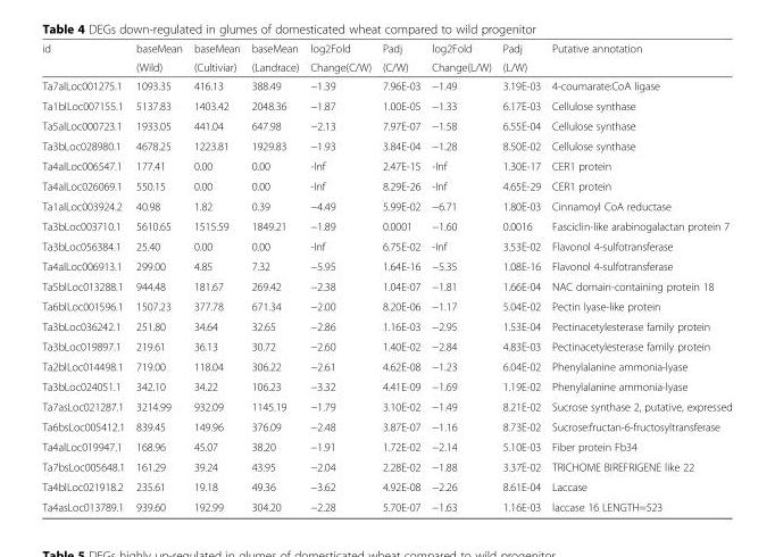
<table><thead><tr><td rowspan="2">id</td><td rowspan="2">baseMean (Wild)</td><td rowspan="2">baseMean (Cultiviar)</td><td rowspan="2">baseMean (Landrace)</td><td rowspan="2">log2Fold Change(C/W)</td><td rowspan="2">Padj (C/W)</td><td rowspan="2">log2Fold Change(L/W)</td><td rowspan="2">Padj (L/W)</td><td rowspan="2">Putative annotation</td></tr><tr></tr></thead><tbody><tr><td>Ta7alLoc001275.1</td><td>1093.35</td><td>416.13</td><td>388.49</td><td>−1.39</td><td>7.96E-03</td><td>−1.49</td><td>3.19E-03</td><td>4-coumarate:CoA ligase</td></tr><tr><td>Ta1blLoc007155.1</td><td>5137.83</td><td>1403.42</td><td>2048.36</td><td>−1.87</td><td>1.00E-05</td><td>−1.33</td><td>6.17E-03</td><td>Cellulose synthase</td></tr><tr><td>Ta5alLoc000723.1</td><td>1933.05</td><td>441.04</td><td>647.98</td><td>−2.13</td><td>7.97E-07</td><td>−1.58</td><td>6.55E-04</td><td>Cellulose synthase</td></tr><tr><td>Ta3bLoc028980.1</td><td>4678.25</td><td>1223.81</td><td>1929.83</td><td>−1.93</td><td>3.84E-04</td><td>−1.28</td><td>8.50E-02</td><td>Cellulose synthase</td></tr><tr><td>Ta4alLoc006547.1</td><td>177.41</td><td>0.00</td><td>0.00</td><td>-Inf</td><td>2.47E-15</td><td>-Inf</td><td>1.30E-17</td><td>CER1 protein</td></tr><tr><td>Ta4alLoc026069.1</td><td>550.15</td><td>0.00</td><td>0.00</td><td>-Inf</td><td>8.29E-26</td><td>-Inf</td><td>4.65E-29</td><td>CER1 protein</td></tr><tr><td>Ta1alLoc003924.2</td><td>40.98</td><td>1.82</td><td>0.39</td><td>−4.49</td><td>5.99E-02</td><td>−6.71</td><td>1.80E-03</td><td>Cinnamoyl CoA reductase</td></tr><tr><td>Ta3bLoc003710.1</td><td>5610.65</td><td>1515.59</td><td>1849.21</td><td>−1.89</td><td>0.0001</td><td>−1.60</td><td>0.0016</td><td>Fasciclin-like arabinogalactan protein 7</td></tr><tr><td>Ta3bLoc056384.1</td><td>25.40</td><td>0.00</td><td>0.00</td><td>-Inf</td><td>6.75E-02</td><td>-Inf</td><td>3.53E-02</td><td>Flavonol 4-sulfotransferase</td></tr><tr><td>Ta4alLoc006913.1</td><td>299.00</td><td>4.85</td><td>7.32</td><td>−5.95</td><td>1.64E-16</td><td>−5.35</td><td>1.08E-16</td><td>Flavonol 4-sulfotransferase</td></tr><tr><td>Ta5blLoc013288.1</td><td>944.48</td><td>181.67</td><td>269.42</td><td>−2.38</td><td>1.04E-07</td><td>−1.81</td><td>1.66E-04</td><td>NAC domain-containing protein 18</td></tr><tr><td>Ta6blLoc001596.1</td><td>1507.23</td><td>377.78</td><td>671.34</td><td>−2.00</td><td>8.20E-06</td><td>−1.17</td><td>5.04E-02</td><td>Pectin lyase-like protein</td></tr><tr><td>Ta3bLoc036242.1</td><td>251.80</td><td>34.64</td><td>32.65</td><td>−2.86</td><td>1.16E-03</td><td>−2.95</td><td>1.53E-04</td><td>Pectinacetylesterase family protein</td></tr><tr><td>Ta3bLoc019897.1</td><td>219.61</td><td>36.13</td><td>30.72</td><td>−2.60</td><td>1.40E-02</td><td>−2.84</td><td>4.83E-03</td><td>Pectinacetylesterase family protein</td></tr><tr><td>Ta2blLoc014498.1</td><td>719.00</td><td>118.04</td><td>306.22</td><td>−2.61</td><td>4.62E-08</td><td>−1.23</td><td>6.04E-02</td><td>Phenylalanine ammonia-lyase</td></tr><tr><td>Ta3bLoc024051.1</td><td>342.10</td><td>34.22</td><td>106.23</td><td>−3.32</td><td>4.41E-09</td><td>−1.69</td><td>1.19E-02</td><td>Phenylalanine ammonia-lyase</td></tr><tr><td>Ta7asLoc021287.1</td><td>3214.99</td><td>932.09</td><td>1145.19</td><td>−1.79</td><td>3.10E-02</td><td>−1.49</td><td>8.21E-02</td><td>Sucrose synthase 2, putative, expressed</td></tr><tr><td>Ta6bsLoc005412.1</td><td>839.45</td><td>149.96</td><td>376.09</td><td>−2.48</td><td>3.87E-07</td><td>−1.16</td><td>8.73E-02</td><td>Sucrose:fructan-6-fructosyltransferase</td></tr><tr><td>Ta4alLoc019947.1</td><td>168.96</td><td>45.07</td><td>38.20</td><td>−1.91</td><td>1.72E-02</td><td>−2.14</td><td>5.10E-03</td><td>Fiber protein Fb34</td></tr><tr><td>Ta7bsLoc005648.1</td><td>161.29</td><td>39.24</td><td>43.95</td><td>−2.04</td><td>2.28E-02</td><td>−1.88</td><td>3.37E-02</td><td>TRICHOME BIREFRIGENE like 22</td></tr><tr><td>Ta4blLoc021918.2</td><td>235.61</td><td>19.18</td><td>49.36</td><td>−3.62</td><td>4.92E-08</td><td>−2.26</td><td>8.61E-04</td><td>Laccase</td></tr><tr><td>Ta4asLoc013789.1</td><td>939.60</td><td>192.99</td><td>304.20</td><td>−2.28</td><td>5.70E-07</td><td>−1.63</td><td>1.16E-03</td><td>laccase 16 LENGTH=523</td></tr></tbody></table>